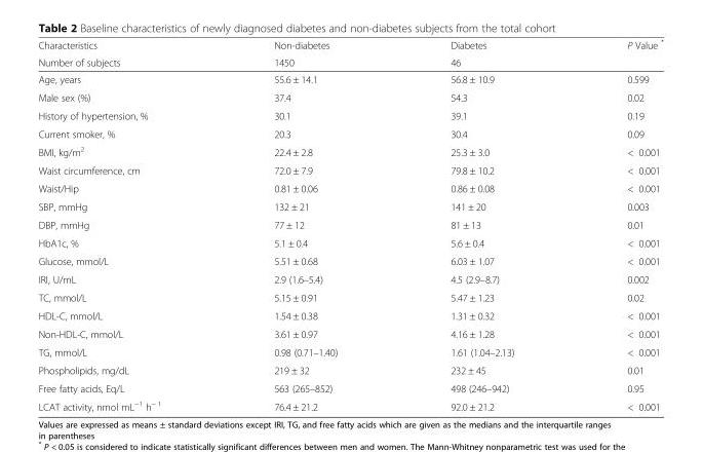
<table><thead><tr><td rowspan="2">Characteristics Number of subjects</td><td rowspan="2">Non-diabetes 1450</td><td rowspan="2">Diabetes 46</td><td rowspan="2">P Value *</td></tr><tr></tr></thead><tbody><tr><td>Age, years</td><td>55.6 ± 14.1</td><td>56.8 ± 10.9</td><td>0.599</td></tr><tr><td>Male sex (%)</td><td>37.4</td><td>54.3</td><td>0.02</td></tr><tr><td>History of hypertension, %</td><td>30.1</td><td>39.1</td><td>0.19</td></tr><tr><td>Current smoker, %</td><td>20.3</td><td>30.4</td><td>0.09</td></tr><tr><td>BMI, kg/m<sup>2</sup></td><td>22.4 ± 2.8</td><td>25.3 ± 3.0</td><td>&lt; 0.001</td></tr><tr><td>Waist circumference, cm</td><td>72.0 ± 7.9</td><td>79.8 ± 10.2</td><td>&lt; 0.001</td></tr><tr><td>Waist/Hip</td><td>0.81 ± 0.06</td><td>0.86 ± 0.08</td><td>&lt; 0.001</td></tr><tr><td>SBP, mmHg</td><td>132 ± 21</td><td>141 ± 20</td><td>0.003</td></tr><tr><td>DBP, mmHg</td><td>77 ± 12</td><td>81 ± 13</td><td>0.01</td></tr><tr><td>HbA1c, %</td><td>5.1 ± 0.4</td><td>5.6 ± 0.4</td><td>&lt; 0.001</td></tr><tr><td>Glucose, mmol/L</td><td>5.51 ± 0.68</td><td>6.03 ± 1.07</td><td>&lt; 0.001</td></tr><tr><td>IRI, U/mL</td><td>2.9 (1.6–5.4)</td><td>4.5 (2.9–8.7)</td><td>0.002</td></tr><tr><td>TC, mmol/L</td><td>5.15 ± 0.91</td><td>5.47 ± 1.23</td><td>0.02</td></tr><tr><td>HDL-C, mmol/L</td><td>1.54 ± 0.38</td><td>1.31 ± 0.32</td><td>&lt; 0.001</td></tr><tr><td>Non-HDL-C, mmol/L</td><td>3.61 ± 0.97</td><td>4.16 ± 1.28</td><td>&lt; 0.001</td></tr><tr><td>TG, mmol/L</td><td>0.98 (0.71–1.40)</td><td>1.61 (1.04–2.13)</td><td>&lt; 0.001</td></tr><tr><td>Phospholipids, mg/dL</td><td>219 ± 32</td><td>232 ± 45</td><td>0.01</td></tr><tr><td>Free fatty acids, Eq/L</td><td>563 (265–852)</td><td>498 (246–942)</td><td>0.95</td></tr><tr><td>LCAT activity, nmol mL<sup>−1</sup> h<sup>− 1</sup></td><td>76.4 ± 21.2</td><td>92.0 ± 21.2</td><td>&lt; 0.001</td></tr></tbody></table>